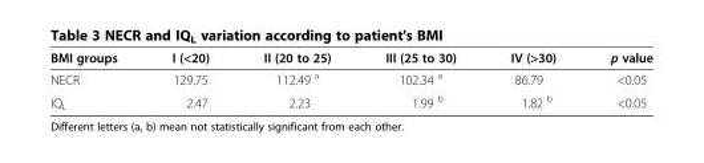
<table><thead><tr><td>BMI groups</td><td>I (&lt;20)</td><td>II (20 to 25)</td><td>III (25 to 30)</td><td>IV (&gt;30)</td><td>p value</td></tr></thead><tbody><tr><td>NECR</td><td>129.75</td><td>112.49 <sup>a</sup></td><td>102.34 <sup>a</sup></td><td>86.79</td><td>&lt;0.05</td></tr><tr><td>IQ<sub>L</sub></td><td>2.47</td><td>2.23</td><td>1.99 <sup>b</sup></td><td>1.82 <sup>b</sup></td><td>&lt;0.05</td></tr></tbody></table>